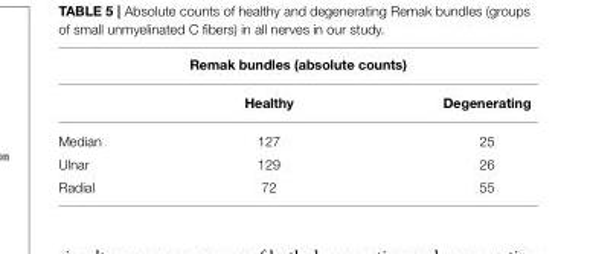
<table><thead><tr><td colspan="3">Remak bundles (absolute counts)</td></tr><tr><td></td><td>Healthy</td><td>Degenerating</td></tr></thead><tbody><tr><td>Median</td><td>127</td><td>25</td></tr><tr><td>Ulnar</td><td>129</td><td>26</td></tr><tr><td>Radial</td><td>72</td><td>55</td></tr></tbody></table>